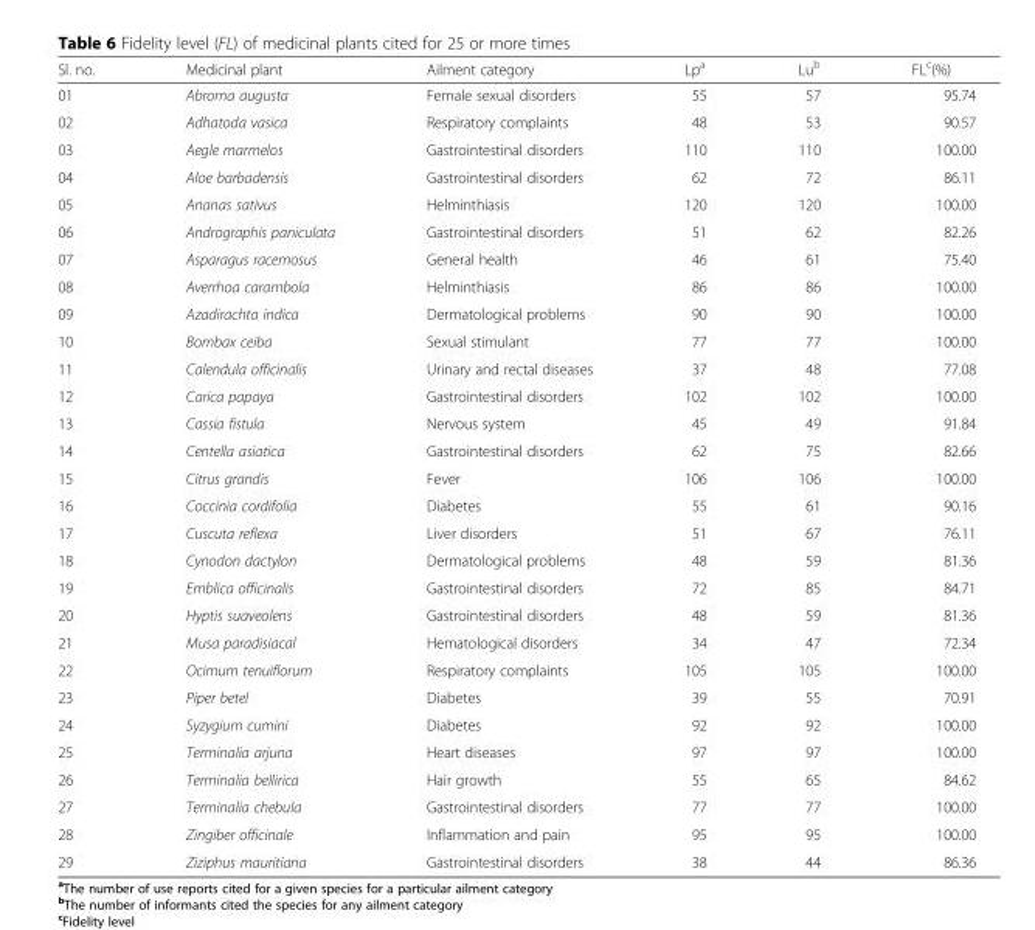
<table><thead><tr><td>Sl. no.</td><td>Medicinal plant</td><td>Ailment category</td><td>Lp<sup>a</sup></td><td>Lu<sup>b</sup></td><td>FL<sup>c</sup>(%)</td></tr></thead><tbody><tr><td>01</td><td>Abroma augusta</td><td>Female sexual disorders</td><td>55</td><td>57</td><td>95.74</td></tr><tr><td>02</td><td>Adhatoda vasica</td><td>Respiratory complaints</td><td>48</td><td>53</td><td>90.57</td></tr><tr><td>03</td><td>Aegle marmelos</td><td>Gastrointestinal disorders</td><td>110</td><td>110</td><td>100.00</td></tr><tr><td>04</td><td>Aloe barbadensis</td><td>Gastrointestinal disorders</td><td>62</td><td>72</td><td>86.11</td></tr><tr><td>05</td><td>Ananas sativus</td><td>Helminthiasis</td><td>120</td><td>120</td><td>100.00</td></tr><tr><td>06</td><td>Andrographis paniculata</td><td>Gastrointestinal disorders</td><td>51</td><td>62</td><td>82.26</td></tr><tr><td>07</td><td>Asparagus racemosus</td><td>General health</td><td>46</td><td>61</td><td>75.40</td></tr><tr><td>08</td><td>Averrhoa carambola</td><td>Helminthiasis</td><td>86</td><td>86</td><td>100.00</td></tr><tr><td>09</td><td>Azadirachta indica</td><td>Dermatological problems</td><td>90</td><td>90</td><td>100.00</td></tr><tr><td>10</td><td>Bombax ceiba</td><td>Sexual stimulant</td><td>77</td><td>77</td><td>100.00</td></tr><tr><td>11</td><td>Calendula officinalis</td><td>Urinary and rectal diseases</td><td>37</td><td>48</td><td>77.08</td></tr><tr><td>12</td><td>Carica papaya</td><td>Gastrointestinal disorders</td><td>102</td><td>102</td><td>100.00</td></tr><tr><td>13</td><td>Cassia fistula</td><td>Nervous system</td><td>45</td><td>49</td><td>91.84</td></tr><tr><td>14</td><td>Centella asiatica</td><td>Gastrointestinal disorders</td><td>62</td><td>75</td><td>82.66</td></tr><tr><td>15</td><td>Citrus grandis</td><td>Fever</td><td>106</td><td>106</td><td>100.00</td></tr><tr><td>16</td><td>Coccinia cordifolia</td><td>Diabetes</td><td>55</td><td>61</td><td>90.16</td></tr><tr><td>17</td><td>Cuscuta reflexa</td><td>Liver disorders</td><td>51</td><td>67</td><td>76.11</td></tr><tr><td>18</td><td>Cynodon dactylon</td><td>Dermatological problems</td><td>48</td><td>59</td><td>81.36</td></tr><tr><td>19</td><td>Emblica officinalis</td><td>Gastrointestinal disorders</td><td>72</td><td>85</td><td>84.71</td></tr><tr><td>20</td><td>Hyptis suaveolens</td><td>Gastrointestinal disorders</td><td>48</td><td>59</td><td>81.36</td></tr><tr><td>21</td><td>Musa paradisiacal</td><td>Hematological disorders</td><td>34</td><td>47</td><td>72.34</td></tr><tr><td>22</td><td>Ocimum tenuiflorum</td><td>Respiratory complaints</td><td>105</td><td>105</td><td>100.00</td></tr><tr><td>23</td><td>Piper betel</td><td>Diabetes</td><td>39</td><td>55</td><td>70.91</td></tr><tr><td>24</td><td>Syzygium cumini</td><td>Diabetes</td><td>92</td><td>92</td><td>100.00</td></tr><tr><td>25</td><td>Terminalia arjuna</td><td>Heart diseases</td><td>97</td><td>97</td><td>100.00</td></tr><tr><td>26</td><td>Terminalia bellirica</td><td>Hair growth</td><td>55</td><td>65</td><td>84.62</td></tr><tr><td>27</td><td>Terminalia chebula</td><td>Gastrointestinal disorders</td><td>77</td><td>77</td><td>100.00</td></tr><tr><td>28</td><td>Zingiber officinale</td><td>Inflammation and pain</td><td>95</td><td>95</td><td>100.00</td></tr><tr><td>29</td><td>Ziziphus mauritiana</td><td>Gastrointestinal disorders</td><td>38</td><td>44</td><td>86.36</td></tr></tbody></table>